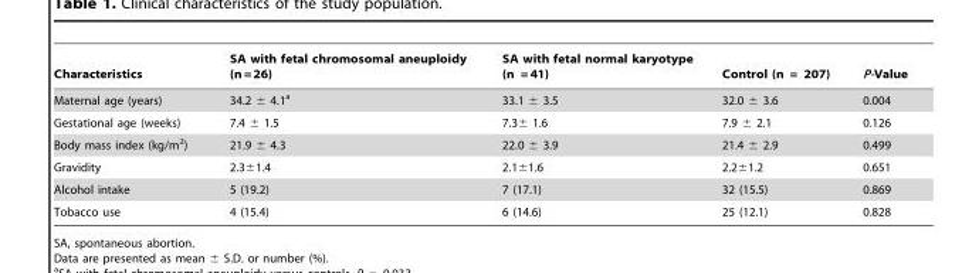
<table><thead><tr><td>Characteristics</td><td>SA with fetal chromosomal aneuploidy (n = 26)</td><td>SA with fetal normal karyotype (n = 41)</td><td>Control (n = 207)</td><td>P-Value</td></tr></thead><tbody><tr><td>Maternal age (years)</td><td>34.2 ± 4.1<sup>a</sup></td><td>33.1 ± 3.5</td><td>32.0 ± 3.6</td><td>0.004</td></tr><tr><td>Gestational age (weeks)</td><td>7.4 ± 1.5</td><td>7.3± 1.6</td><td>7.9 ± 2.1</td><td>0.126</td></tr><tr><td>Body mass index (kg/m<sup>2</sup>)</td><td>21.9 ± 4.3</td><td>22.0 ± 3.9</td><td>21.4 ± 2.9</td><td>0.499</td></tr><tr><td>Gravidity</td><td>2.3±1.4</td><td>2.1±1.6</td><td>2.2±1.2</td><td>0.651</td></tr><tr><td>Alcohol intake</td><td>5 (19.2)</td><td>7 (17.1)</td><td>32 (15.5)</td><td>0.869</td></tr><tr><td>Tobacco use</td><td>4 (15.4)</td><td>6 (14.6)</td><td>25 (12.1)</td><td>0.828</td></tr></tbody></table>